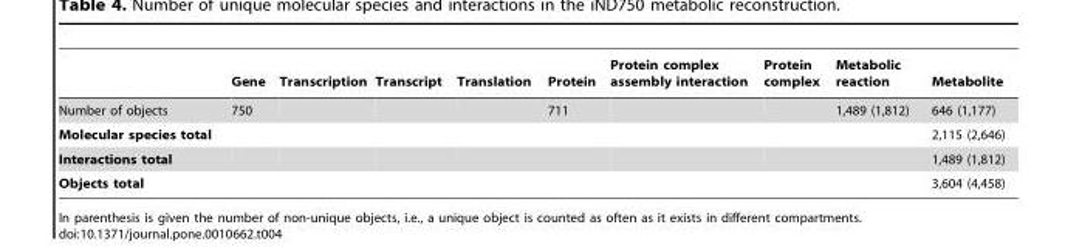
<table><thead><tr><td></td><td>Gene</td><td>Transcription</td><td>Transcript</td><td>Translation</td><td>Protein</td><td>Protein complex assembly interaction</td><td>Protein complex</td><td>Metabolic reaction</td><td>Metabolite</td></tr></thead><tbody><tr><td>Number of objects</td><td>750</td><td></td><td></td><td></td><td>711</td><td></td><td></td><td>1,489 (1,812)</td><td>646 (1,177)</td></tr><tr><td>Molecular species total</td><td></td><td></td><td></td><td></td><td></td><td></td><td></td><td></td><td>2,115 (2,646)</td></tr><tr><td>Interactions total</td><td></td><td></td><td></td><td></td><td></td><td></td><td></td><td></td><td>1,489 (1,812)</td></tr><tr><td>Objects total</td><td></td><td></td><td></td><td></td><td></td><td></td><td></td><td></td><td>3,604 (4,458)</td></tr></tbody></table>